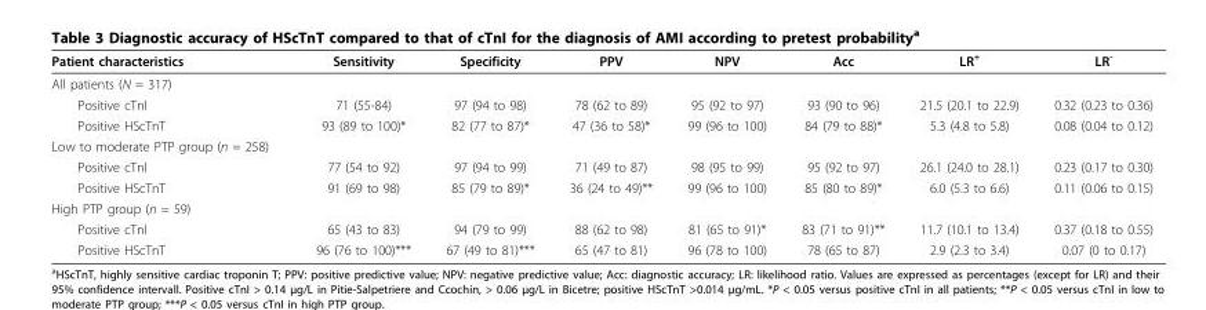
<table><thead><tr><td>Patient characteristics</td><td>Sensitivity</td><td>Specificity</td><td>PPV</td><td>NPV</td><td>Acc</td><td>LR<sup>+</sup></td><td>LR<sup>-</sup></td></tr></thead><tbody><tr><td colspan="8">All patients (N = 317)</td></tr><tr><td>Positive cTnI</td><td>71 (55-84)</td><td>97 (94 to 98)</td><td>78 (62 to 89)</td><td>95 (92 to 97)</td><td>93 (90 to 96)</td><td>21.5 (20.1 to 22.9)</td><td>0.32 (0.23 to 0.36)</td></tr><tr><td>Positive HScTnT</td><td>93 (89 to 100)*</td><td>82 (77 to 87)*</td><td>47 (36 to 58)*</td><td>99 (96 to 100)</td><td>84 (79 to 88)*</td><td>5.3 (4.8 to 5.8)</td><td>0.08 (0.04 to 0.12)</td></tr><tr><td colspan="8">Low to moderate PTP group (n = 258)</td></tr><tr><td>Positive cTnI</td><td>77 (54 to 92)</td><td>97 (94 to 99)</td><td>71 (49 to 87)</td><td>98 (95 to 99)</td><td>95 (92 to 97)</td><td>26.1 (24.0 to 28.1)</td><td>0.23 (0.17 to 0.30)</td></tr><tr><td>Positive HScTnT</td><td>91 (69 to 98)</td><td>85 (79 to 89)*</td><td>36 (24 to 49)**</td><td>99 (96 to 100)</td><td>85 (80 to 89)*</td><td>6.0 (5.3 to 6.6)</td><td>0.11 (0.06 to 0.15)</td></tr><tr><td colspan="8">High PTP group (n = 59)</td></tr><tr><td>Positive cTnI</td><td>65 (43 to 83)</td><td>94 (79 to 99)</td><td>88 (62 to 98)</td><td>81 (65 to 91)*</td><td>83 (71 to 91)**</td><td>11.7 (10.1 to 13.4)</td><td>0.37 (0.18 to 0.55)</td></tr><tr><td>Positive HScTnT</td><td>96 (76 to 100)***</td><td>67 (49 to 81)***</td><td>65 (47 to 81)</td><td>96 (78 to 100)</td><td>78 (65 to 87)</td><td>2.9 (2.3 to 3.4)</td><td>0.07 (0 to 0.17)</td></tr></tbody></table>